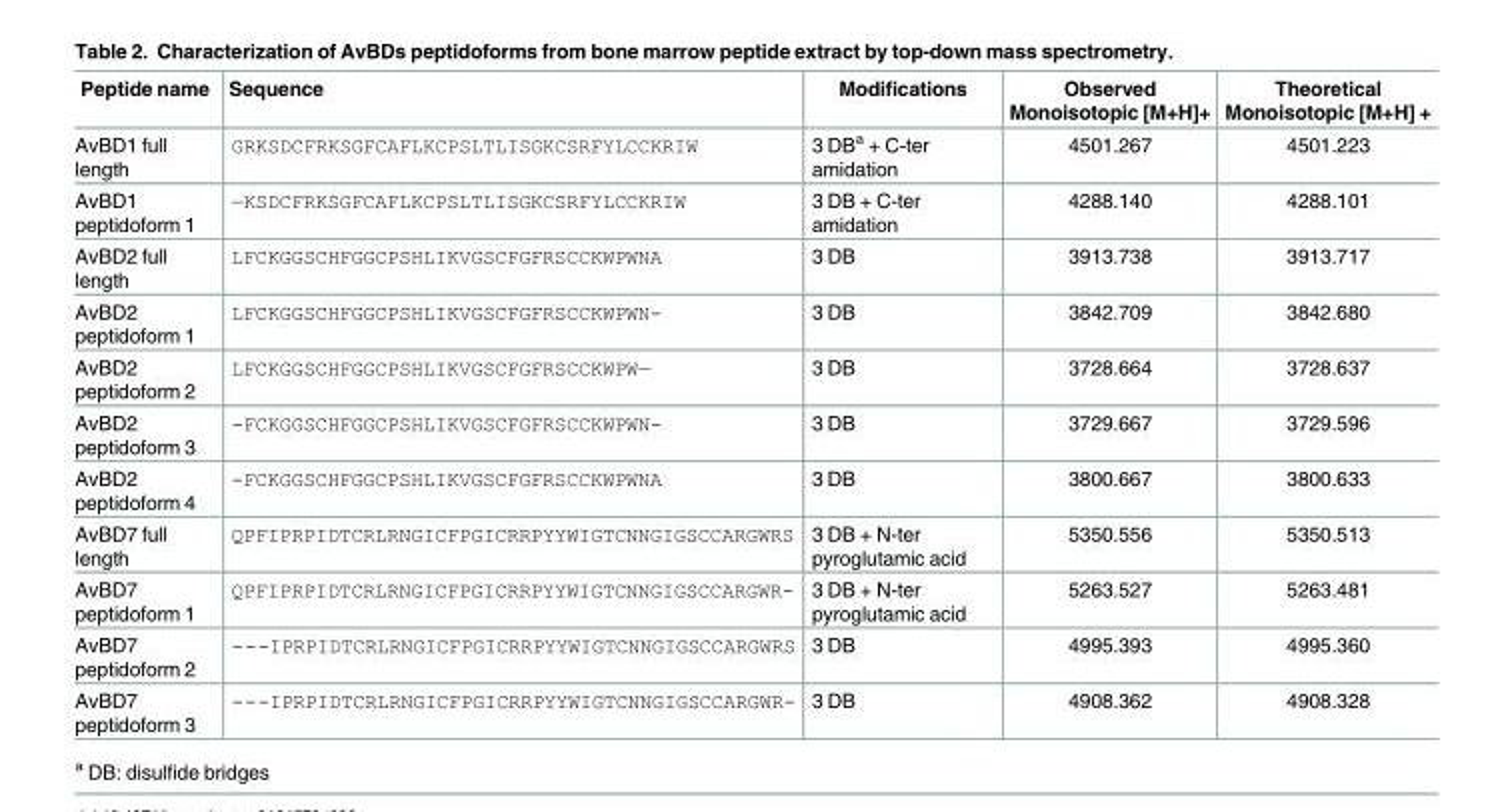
<table><thead><tr><td>Peptide name</td><td>Sequence</td><td>Modifications</td><td>Observed Monoisotopic [M+H]+</td><td>Theoretical Monoisotopic [M+H] +</td></tr></thead><tbody><tr><td>AvBD1 full length</td><td>GRKSDCFRKSGFCAFLKCPSLTLISGKCSRFYLCCKRIW</td><td>3 DB<sup>a</sup> + C-ter amidation</td><td>4501.267</td><td>4501.223</td></tr><tr><td>AvBD1 peptidoform 1</td><td>—KSDCFRKSGFCAFLKCPSLTLISGKCSRFYLCCKRIW</td><td>3 DB + C-ter amidation</td><td>4288.140</td><td>4288.101</td></tr><tr><td>AvBD2 full length</td><td>LFCKGGSCHFGGCPSHLIKVGSCFGFRSCCKWPWNA</td><td>3 DB</td><td>3913.738</td><td>3913.717</td></tr><tr><td>AvBD2 peptidoform 1</td><td>LFCKGGSCHFGGCPSHLIKVGSCFGFRSCCKWPWN-</td><td>3 DB</td><td>3842.709</td><td>3842.680</td></tr><tr><td>AvBD2 peptidoform 2</td><td>LFCKGGSCHFGGCPSHLIKVGSCFGFRSCCKWPW—</td><td>3 DB</td><td>3728.664</td><td>3728.637</td></tr><tr><td>AvBD2 peptidoform 3</td><td>-FCKGGSCHFGGCPSHLIKVGSCFGFRSCCKWPWN-</td><td>3 DB</td><td>3729.667</td><td>3729.596</td></tr><tr><td>AvBD2 peptidoform 4</td><td>-FCKGGSCHFGGCPSHLIKVGSCFGFRSCCKWPWNA</td><td>3 DB</td><td>3800.667</td><td>3800.633</td></tr><tr><td>AvBD7 full length</td><td>QPFIPRPIDTCRLRNGICFPGICRRPYYWIGTCNNGIGSCCARGWRS</td><td>3 DB + N-ter pyroglutamic acid</td><td>5350.556</td><td>5350.513</td></tr><tr><td>AvBD7 peptidoform 1</td><td>QPFIPRPIDTCRLRNGICFPGICRRPYYWIGTCNNGIGSCCARGWR-</td><td>3 DB + N-ter pyroglutamic acid</td><td>5263.527</td><td>5263.481</td></tr><tr><td>AvBD7 peptidoform 2</td><td>---IPRPIDTCRLRNGICFPGICRRPYYWIGTCNNGIGSCCARGWRS</td><td>3 DB</td><td>4995.393</td><td>4995.360</td></tr><tr><td>AvBD7 peptidoform 3</td><td>---IPRPIDTCRLRNGICFPGICRRPYYWIGTCNNGIGSCCARGWR-</td><td>3 DB</td><td>4908.362</td><td>4908.328</td></tr></tbody></table>